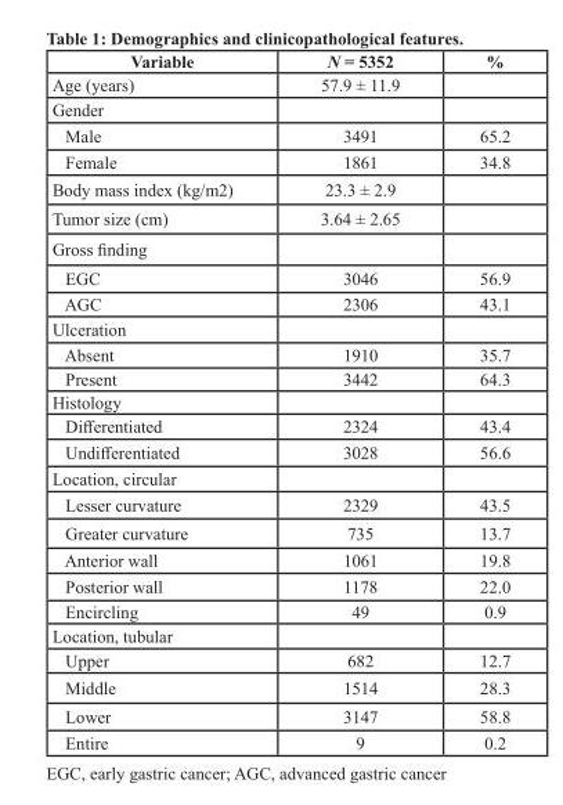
<table><thead><tr><td>Variable</td><td>N = 5352</td><td>%</td></tr></thead><tbody><tr><td>Age (years)</td><td>57.9 ± 11.9</td><td></td></tr><tr><td colspan="3">Gender</td></tr><tr><td>Male</td><td>3491</td><td>65.2</td></tr><tr><td>Female</td><td>1861</td><td>34.8</td></tr><tr><td>Body mass index (kg/m2)</td><td>23.3 ± 2.9</td><td></td></tr><tr><td>Tumor size (cm)</td><td>3.64 ± 2.65</td><td></td></tr><tr><td colspan="3">Gross finding</td></tr><tr><td>EGC</td><td>3046</td><td>56.9</td></tr><tr><td>AGC</td><td>2306</td><td>43.1</td></tr><tr><td colspan="3">Ulceration</td></tr><tr><td>Absent</td><td>1910</td><td>35.7</td></tr><tr><td>Present</td><td>3442</td><td>64.3</td></tr><tr><td colspan="3">Histology</td></tr><tr><td>Differentiated</td><td>2324</td><td>43.4</td></tr><tr><td>Undifferentiated</td><td>3028</td><td>56.6</td></tr><tr><td colspan="3">Location, circular</td></tr><tr><td>Lesser curvature</td><td>2329</td><td>43.5</td></tr><tr><td>Greater curvature</td><td>735</td><td>13.7</td></tr><tr><td>Anterior wall</td><td>1061</td><td>19.8</td></tr><tr><td>Posterior wall</td><td>1178</td><td>22.0</td></tr><tr><td>Encircling</td><td>49</td><td>0.9</td></tr><tr><td colspan="3">Location, tubular</td></tr><tr><td>Upper</td><td>682</td><td>12.7</td></tr><tr><td>Middle</td><td>1514</td><td>28.3</td></tr><tr><td>Lower</td><td>3147</td><td>58.8</td></tr><tr><td>Entire</td><td>9</td><td>0.2</td></tr></tbody></table>